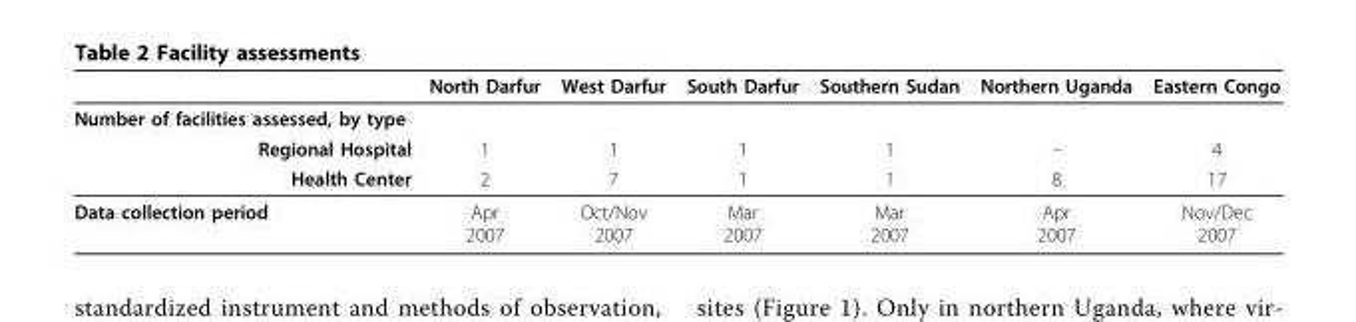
<table><thead><tr><td></td><td>North Darfur</td><td>West Darfur</td><td>South Darfur</td><td>Southern Sudan</td><td>Northern Uganda</td><td>Eastern Congo</td></tr></thead><tbody><tr><td colspan="7">Number of facilities assessed, by type</td></tr><tr><td>Regional Hospital</td><td>1</td><td>1</td><td>1</td><td>1</td><td>-</td><td>4</td></tr><tr><td>Health Center</td><td>2</td><td>7</td><td>1</td><td>1</td><td>8</td><td>17</td></tr><tr><td>Data collection period</td><td>Apr 2007</td><td>Oct/Nov 2007</td><td>Mar 2007</td><td>Mar 2007</td><td>Apr 2007</td><td>Nov/Dec 2007</td></tr></tbody></table>